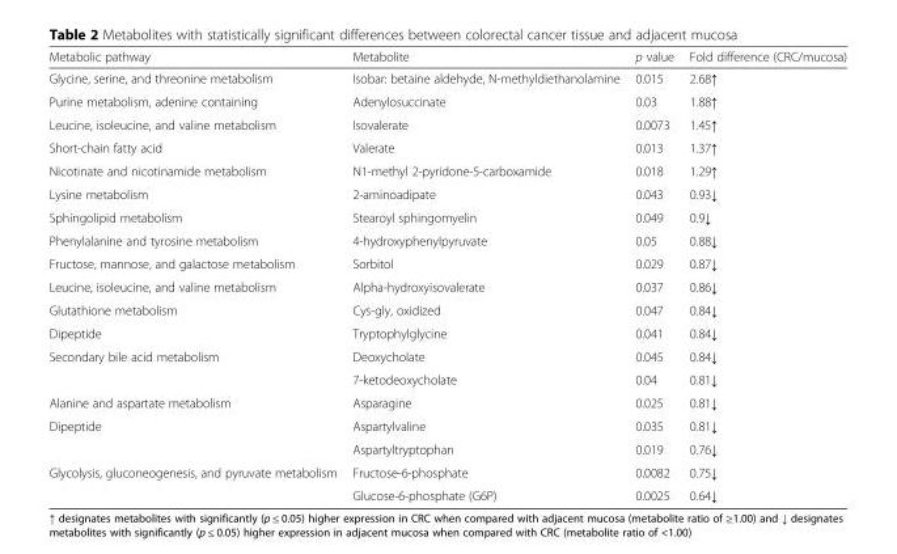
<table><thead><tr><td>Metabolic pathway</td><td>Metabolite</td><td>p value</td><td>Fold difference (CRC/mucosa)</td></tr></thead><tbody><tr><td>Glycine, serine, and threonine metabolism</td><td>Isobar: betaine aldehyde, N-methyldiethanolamine</td><td>0.015</td><td>2.68↑</td></tr><tr><td>Purine metabolism, adenine containing</td><td>Adenylosuccinate</td><td>0.03</td><td>1.88↑</td></tr><tr><td>Leucine, isoleucine, and valine metabolism</td><td>Isovalerate</td><td>0.0073</td><td>1.45↑</td></tr><tr><td>Short-chain fatty acid</td><td>Valerate</td><td>0.013</td><td>1.37↑</td></tr><tr><td>Nicotinate and nicotinamide metabolism</td><td>N1-methyl 2-pyridone-5-carboxamide</td><td>0.018</td><td>1.29↑</td></tr><tr><td>Lysine metabolism</td><td>2-aminoadipate</td><td>0.043</td><td>0.93↓</td></tr><tr><td>Sphingolipid metabolism</td><td>Stearoyl sphingomyelin</td><td>0.049</td><td>0.9↓</td></tr><tr><td>Phenylalanine and tyrosine metabolism</td><td>4-hydroxyphenylpyruvate</td><td>0.05</td><td>0.88↓</td></tr><tr><td>Fructose, mannose, and galactose metabolism</td><td>Sorbitol</td><td>0.029</td><td>0.87↓</td></tr><tr><td>Leucine, isoleucine, and valine metabolism</td><td>Alpha-hydroxyisovalerate</td><td>0.037</td><td>0.86↓</td></tr><tr><td>Glutathione metabolism</td><td>Cys-gly, oxidized</td><td>0.047</td><td>0.84↓</td></tr><tr><td>Dipeptide</td><td>Tryptophylglycine</td><td>0.041</td><td>0.84↓</td></tr><tr><td rowspan="2">Secondary bile acid metabolism</td><td>Deoxycholate</td><td>0.045</td><td>0.84↓</td></tr><tr><td>7-ketodeoxycholate</td><td>0.04</td><td>0.81↓</td></tr><tr><td>Alanine and aspartate metabolism</td><td>Asparagine</td><td>0.025</td><td>0.81↓</td></tr><tr><td rowspan="2">Dipeptide</td><td>Aspartylvaline</td><td>0.035</td><td>0.81↓</td></tr><tr><td>Aspartyltryptophan</td><td>0.019</td><td>0.76↓</td></tr><tr><td rowspan="2">Glycolysis, gluconeogenesis, and pyruvate metabolism</td><td>Fructose-6-phosphate</td><td>0.0082</td><td>0.75↓</td></tr><tr><td>Glucose-6-phosphate (G6P)</td><td>0.0025</td><td>0.64↓</td></tr></tbody></table>